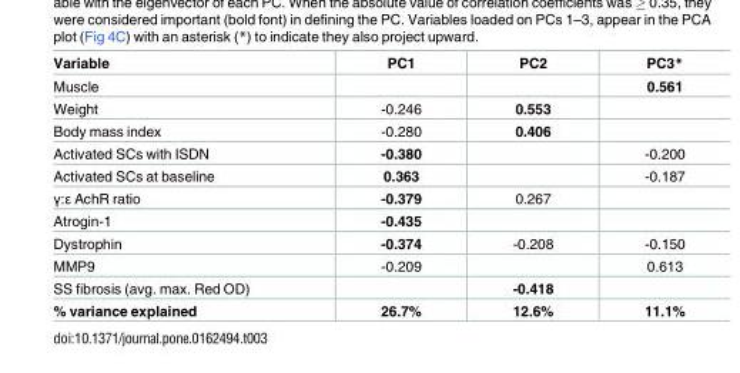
<table><thead><tr><td>Variable</td><td>PC1</td><td>PC2</td><td>PC3*</td></tr></thead><tbody><tr><td>Muscle</td><td></td><td></td><td>0.561</td></tr><tr><td>Weight</td><td>-0.246</td><td>0.553</td><td></td></tr><tr><td>Body mass index</td><td>-0.280</td><td>0.406</td><td></td></tr><tr><td>Activated SCs with ISDN</td><td>-0.380</td><td></td><td>-0.200</td></tr><tr><td>Activated SCs at baseline</td><td>0.363</td><td></td><td>-0.187</td></tr><tr><td>γ:ε AchR ratio</td><td>-0.379</td><td>0.267</td><td></td></tr><tr><td>Atrogin-1</td><td>-0.435</td><td></td><td></td></tr><tr><td>Dystrophin</td><td>-0.374</td><td>-0.208</td><td>-0.150</td></tr><tr><td>MMP9</td><td>-0.209</td><td></td><td>0.613</td></tr><tr><td>SS fibrosis (avg. max. Red OD)</td><td></td><td>-0.418</td><td></td></tr><tr><td>% variance explained</td><td>26.7%</td><td>12.6%</td><td>11.1%</td></tr></tbody></table>